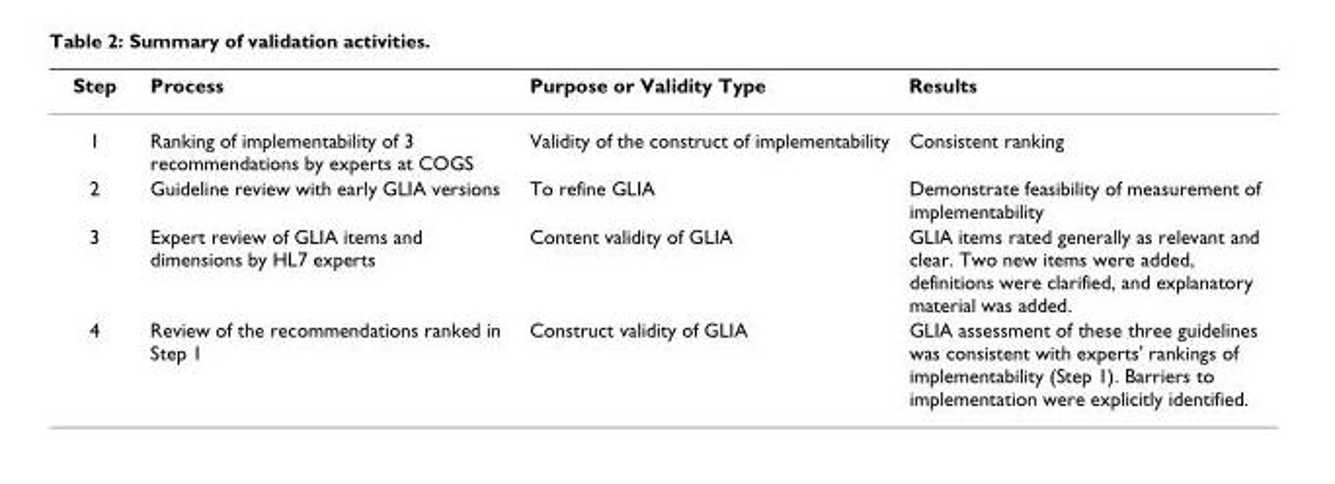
<table><thead><tr><td>Step</td><td>Process</td><td>Purpose or Validity Type</td><td>Results</td></tr></thead><tbody><tr><td>1</td><td>Ranking of implementability of 3 recommendations by experts at COGS</td><td>Validity of the construct of implementability</td><td>Consistent ranking</td></tr><tr><td>2</td><td>Guideline review with early GLIA versions</td><td>To refine GLIA</td><td>Demonstrate feasibility of measurement of implementability</td></tr><tr><td>3</td><td>Expert review of GLIA items and dimensions by HL7 experts</td><td>Content validity of GLIA</td><td>GLIA items rated generally as relevant and clear. Two new items were added, definitions were clarified, and explanatory material was added.</td></tr><tr><td>4</td><td>Review of the recommendations ranked in Step 1</td><td>Construct validity of GLIA</td><td>GLIA assessment of these three guidelines was consistent with experts&#x27; rankings of implementability (Step 1). Barriers to implementation were explicitly identified.</td></tr></tbody></table>